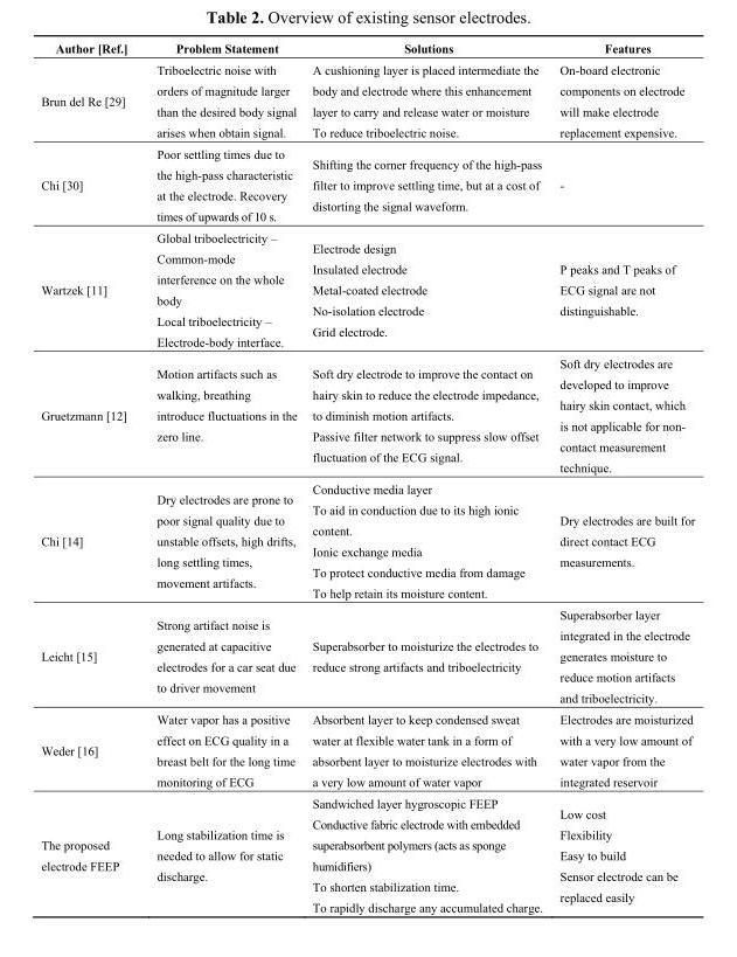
<table><thead><tr><td>Author [Ref.]</td><td>Problem Statement</td><td>Solutions</td><td>Features</td></tr></thead><tbody><tr><td>Brun del Re [29]</td><td>Triboelectric noise with orders of magnitude larger than the desired body signal arises when obtain signal.</td><td>A cushioning layer is placed intermediate the body and electrode where this enhancement layer to carry and release water or moisture To reduce triboelectric noise.</td><td>On-board electronic components on electrode will make electrode replacement expensive.</td></tr><tr><td>Chi [30]</td><td>Poor settling times due to the high-pass characteristic at the electrode. Recovery times of upwards of 10 s.</td><td>Shifting the corner frequency of the high-pass filter to improve settling time, but at a cost of distorting the signal waveform.</td><td>-</td></tr><tr><td>Wartzek [11]</td><td>Global triboelectricity – Common-mode interference on the whole body Local triboelectricity – Electrode-body interface.</td><td>Electrode design Insulated electrode Metal-coated electrode No-isolation electrode Grid electrode.</td><td>P peaks and T peaks of ECG signal are not distinguishable.</td></tr><tr><td>Gruetzmann [12]</td><td>Motion artifacts such as walking, breathing introduce fluctuations in the zero line.</td><td>Soft dry electrode to improve the contact on hairy skin to reduce the electrode impedance, to diminish motion artifacts. Passive filter network to suppress slow offset fluctuation of the ECG signal.</td><td>Soft dry electrodes are developed to improve hairy skin contact, which is not applicable for non- contact measurement technique.</td></tr><tr><td>Chi [14]</td><td>Dry electrodes are prone to poor signal quality due to unstable offsets, high drifts, long settling times, movement artifacts.</td><td>Conductive media layer To aid in conduction due to its high ionic content. Ionic exchange media To protect conductive media from damage To help retain its moisture content.</td><td>Dry electrodes are built for direct contact ECG measurements.</td></tr><tr><td>Leicht [15]</td><td>Strong artifact noise is generated at capacitive electrodes for a car seat due to driver movement</td><td>Superabsorber to moisturize the electrodes to reduce strong artifacts and triboelectricity</td><td>Superabsorber layer integrated in the electrode generates moisture to reduce motion artifacts and triboelectricity.</td></tr><tr><td>Weder [16]</td><td>Water vapor has a positive effect on ECG quality in a breast belt for the long time monitoring of ECG</td><td>Absorbent layer to keep condensed sweat water at flexible water tank in a form of absorbent layer to moisturize electrodes with a very low amount of water vapor</td><td>Electrodes are moisturized with a very low amount of water vapor from the integrated reservoir</td></tr><tr><td>The proposed electrode FEEP</td><td>Long stabilization time is needed to allow for static discharge.</td><td>Sandwiched layer hygroscopic FEEP Conductive fabric electrode with embedded superabsorbent polymers (acts as sponge humidifiers) To shorten stabilization time. To rapidly discharge any accumulated charge.</td><td>Low cost Flexibility Easy to build Sensor electrode can be replaced easily</td></tr></tbody></table>